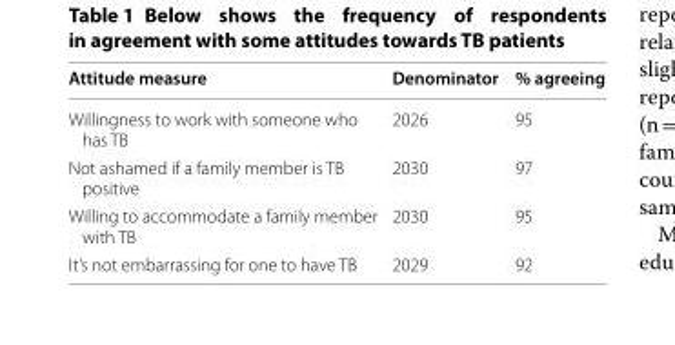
<table><thead><tr><td>Attitude measure</td><td>Denominator</td><td>% agreeing</td></tr></thead><tbody><tr><td>Willingness to work with someone who has TB</td><td>2026</td><td>95</td></tr><tr><td>Not ashamed if a family member is TB positive</td><td>2030</td><td>97</td></tr><tr><td>Willing to accommodate a family member with TB</td><td>2030</td><td>95</td></tr><tr><td>It’s not embarrassing for one to have TB</td><td>2029</td><td>92</td></tr></tbody></table>